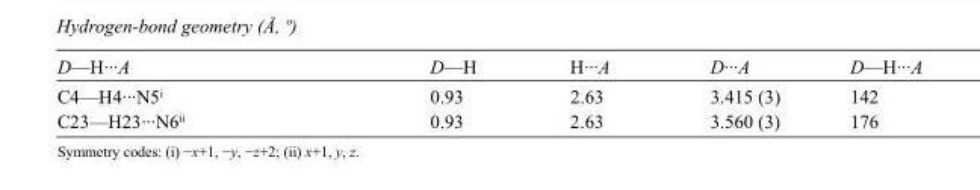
<table><tbody><tr><td>D—H···A</td><td>D—H</td><td>H···A</td><td>D···A</td><td>D—H···A</td></tr><tr><td>C4—H4···N5<sup>i</sup></td><td>0.93</td><td>2.63</td><td>3.415 (3)</td><td>142</td></tr><tr><td>C23—H23···N6<sup>ii</sup></td><td>0.93</td><td>2.63</td><td>3.560 (3)</td><td>176</td></tr></tbody></table>